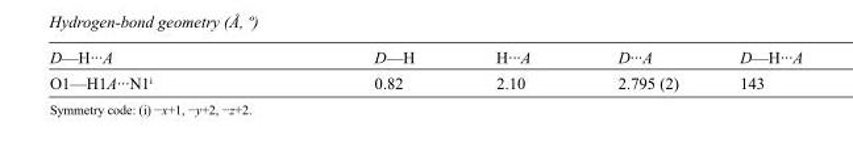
<table><tbody><tr><td>D—H···A</td><td>D—H</td><td>H···A</td><td>D···A</td><td>D—H···A</td></tr><tr><td>O1—H1A···N1<sup>i</sup></td><td>0.82</td><td>2.10</td><td>2.795 (2)</td><td>143</td></tr></tbody></table>